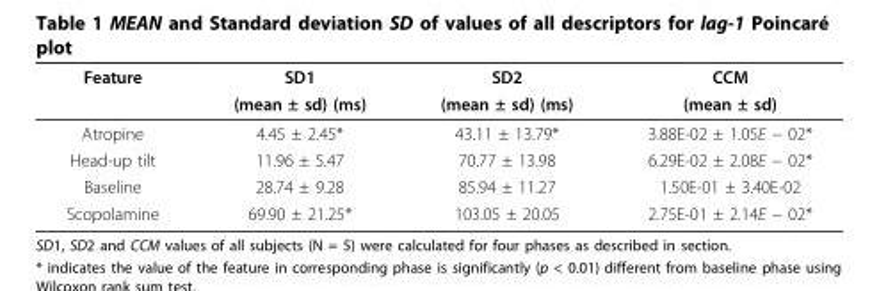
<table><thead><tr><td rowspan="2">Feature</td><td rowspan="2">SD1 (mean ± sd) (ms)</td><td rowspan="2">SD2 (mean ± sd) (ms)</td><td rowspan="2">CCM (mean ± sd)</td></tr><tr></tr></thead><tbody><tr><td>Atropine</td><td>4.45 ± 2.45*</td><td>43.11 ± 13.79*</td><td>3.88E-02 ± 1.05E − 02*</td></tr><tr><td>Head-up tilt</td><td>11.96 ± 5.47</td><td>70.77 ± 13.98</td><td>6.29E-02 ± 2.08E − 02*</td></tr><tr><td>Baseline</td><td>28.74 ± 9.28</td><td>85.94 ± 11.27</td><td>1.50E-01 ± 3.40E-02</td></tr><tr><td>Scopolamine</td><td>69.90 ± 21.25*</td><td>103.05 ± 20.05</td><td>2.75E-01 ± 2.14E − 02*</td></tr></tbody></table>